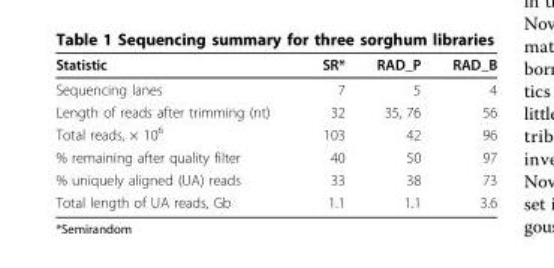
<table><thead><tr><td>Statistic</td><td>SR*</td><td>RAD_P</td><td>RAD_B</td></tr></thead><tbody><tr><td>Sequencing lanes</td><td>7</td><td>5</td><td>4</td></tr><tr><td>Length of reads after trimming (nt)</td><td>32</td><td>35, 76</td><td>56</td></tr><tr><td>Total reads, × 10<sup>6</sup></td><td>103</td><td>42</td><td>96</td></tr><tr><td>% remaining after quality filter</td><td>40</td><td>50</td><td>97</td></tr><tr><td>% uniquely aligned (UA) reads</td><td>33</td><td>38</td><td>73</td></tr><tr><td>Total length of UA reads, Gb</td><td>1.1</td><td>1.1</td><td>3.6</td></tr></tbody></table>